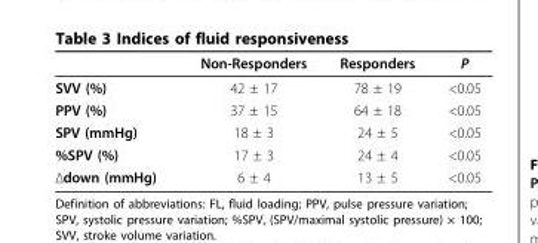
<table><thead><tr><td></td><td>Non-Responders</td><td>Responders</td><td>P</td></tr></thead><tbody><tr><td>SVV (%)</td><td>42 ± 17</td><td>78 ± 19</td><td>&lt;0.05</td></tr><tr><td>PPV (%)</td><td>37 ± 15</td><td>64 ± 18</td><td>&lt;0.05</td></tr><tr><td>SPV (mmHg)</td><td>18 ± 3</td><td>24 ± 5</td><td>&lt;0.05</td></tr><tr><td>%SPV (%)</td><td>17 ± 3</td><td>24 ± 4</td><td>&lt;0.05</td></tr><tr><td>Δdown (mmHg)</td><td>6 ± 4</td><td>13 ± 5</td><td>&lt;0.05</td></tr></tbody></table>